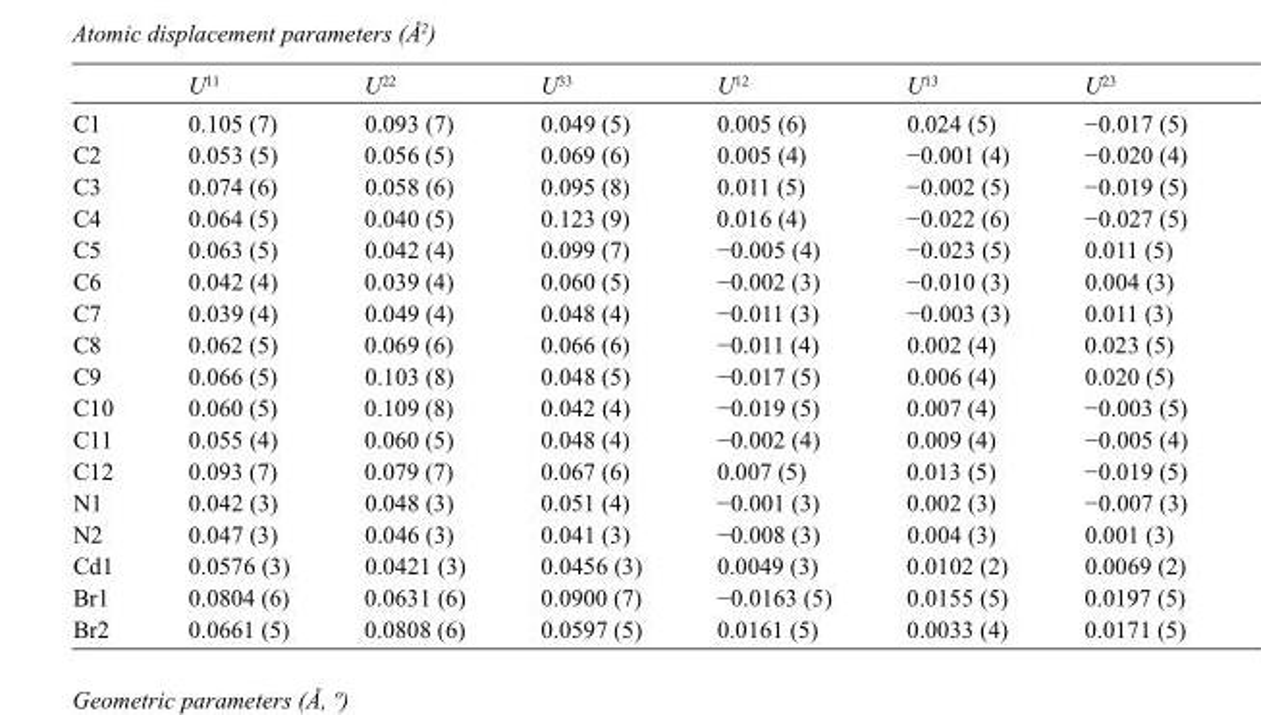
<table><thead><tr><td></td><td>U<sup>11</sup></td><td>U<sup>22</sup></td><td>U<sup>33</sup></td><td>U<sup>12</sup></td><td>U<sup>13</sup></td><td>U<sup>23</sup></td></tr></thead><tbody><tr><td>C1</td><td>0.105 (7)</td><td>0.093 (7)</td><td>0.049 (5)</td><td>0.005 (6)</td><td>0.024 (5)</td><td>−0.017 (5)</td></tr><tr><td>C2</td><td>0.053 (5)</td><td>0.056 (5)</td><td>0.069 (6)</td><td>0.005 (4)</td><td>−0.001 (4)</td><td>−0.020 (4)</td></tr><tr><td>C3</td><td>0.074 (6)</td><td>0.058 (6)</td><td>0.095 (8)</td><td>0.011 (5)</td><td>−0.002 (5)</td><td>−0.019 (5)</td></tr><tr><td>C4</td><td>0.064 (5)</td><td>0.040 (5)</td><td>0.123 (9)</td><td>0.016 (4)</td><td>−0.022 (6)</td><td>−0.027 (5)</td></tr><tr><td>C5</td><td>0.063 (5)</td><td>0.042 (4)</td><td>0.099 (7)</td><td>−0.005 (4)</td><td>−0.023 (5)</td><td>0.011 (5)</td></tr><tr><td>C6</td><td>0.042 (4)</td><td>0.039 (4)</td><td>0.060 (5)</td><td>−0.002 (3)</td><td>−0.010 (3)</td><td>0.004 (3)</td></tr><tr><td>C7</td><td>0.039 (4)</td><td>0.049 (4)</td><td>0.048 (4)</td><td>−0.011 (3)</td><td>−0.003 (3)</td><td>0.011 (3)</td></tr><tr><td>C8</td><td>0.062 (5)</td><td>0.069 (6)</td><td>0.066 (6)</td><td>−0.011 (4)</td><td>0.002 (4)</td><td>0.023 (5)</td></tr><tr><td>C9</td><td>0.066 (5)</td><td>0.103 (8)</td><td>0.048 (5)</td><td>−0.017 (5)</td><td>0.006 (4)</td><td>0.020 (5)</td></tr><tr><td>C10</td><td>0.060 (5)</td><td>0.109 (8)</td><td>0.042 (4)</td><td>−0.019 (5)</td><td>0.007 (4)</td><td>−0.003 (5)</td></tr><tr><td>C11</td><td>0.055 (4)</td><td>0.060 (5)</td><td>0.048 (4)</td><td>−0.002 (4)</td><td>0.009 (4)</td><td>−0.005 (4)</td></tr><tr><td>C12</td><td>0.093 (7)</td><td>0.079 (7)</td><td>0.067 (6)</td><td>0.007 (5)</td><td>0.013 (5)</td><td>−0.019 (5)</td></tr><tr><td>N1</td><td>0.042 (3)</td><td>0.048 (3)</td><td>0.051 (4)</td><td>−0.001 (3)</td><td>0.002 (3)</td><td>−0.007 (3)</td></tr><tr><td>N2</td><td>0.047 (3)</td><td>0.046 (3)</td><td>0.041 (3)</td><td>−0.008 (3)</td><td>0.004 (3)</td><td>0.001 (3)</td></tr><tr><td>Cd1</td><td>0.0576 (3)</td><td>0.0421 (3)</td><td>0.0456 (3)</td><td>0.0049 (3)</td><td>0.0102 (2)</td><td>0.0069 (2)</td></tr><tr><td>Br1</td><td>0.0804 (6)</td><td>0.0631 (6)</td><td>0.0900 (7)</td><td>−0.0163 (5)</td><td>0.0155 (5)</td><td>0.0197 (5)</td></tr><tr><td>Br2</td><td>0.0661 (5)</td><td>0.0808 (6)</td><td>0.0597 (5)</td><td>0.0161 (5)</td><td>0.0033 (4)</td><td>0.0171 (5)</td></tr></tbody></table>